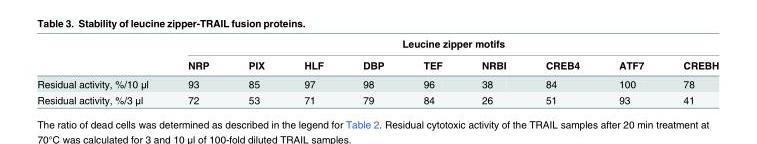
<table><thead><tr><td rowspan="2"></td><td colspan="9">Leucine zipper motifs</td></tr><tr><td>NRP</td><td>PIX</td><td>HLF</td><td>DBP</td><td>TEF</td><td>NRBI</td><td>CREB4</td><td>ATF7</td><td>CREBH</td></tr></thead><tbody><tr><td>Residual activity, %/10 μl</td><td>93</td><td>85</td><td>97</td><td>98</td><td>96</td><td>38</td><td>84</td><td>100</td><td>78</td></tr><tr><td>Residual activity, %/3 μl</td><td>72</td><td>53</td><td>71</td><td>79</td><td>84</td><td>26</td><td>51</td><td>93</td><td>41</td></tr></tbody></table>